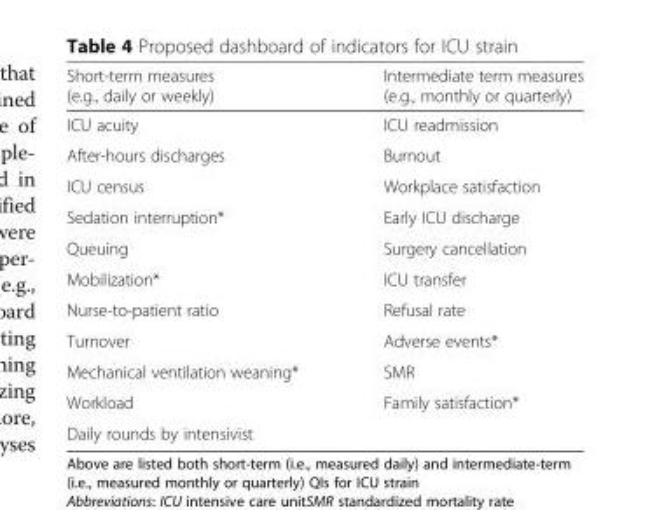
<table><thead><tr><td>Short-term measures (e.g., daily or weekly)</td><td>Intermediate term measures (e.g., monthly or quarterly)</td></tr></thead><tbody><tr><td>ICU acuity</td><td>ICU readmission</td></tr><tr><td>After-hours discharges</td><td>Burnout</td></tr><tr><td>ICU census</td><td>Workplace satisfaction</td></tr><tr><td>Sedation interruption*</td><td>Early ICU discharge</td></tr><tr><td>Queuing</td><td>Surgery cancellation</td></tr><tr><td>Mobilization*</td><td>ICU transfer</td></tr><tr><td>Nurse-to-patient ratio</td><td>Refusal rate</td></tr><tr><td>Turnover</td><td>Adverse events*</td></tr><tr><td>Mechanical ventilation weaning*</td><td>SMR</td></tr><tr><td>Workload</td><td rowspan="2">Family satisfaction*</td></tr><tr><td>Daily rounds by intensivist</td></tr></tbody></table>